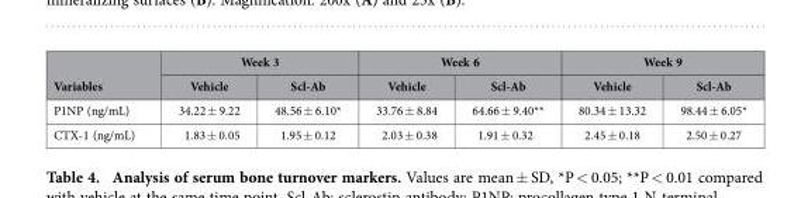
<table><thead><tr><td rowspan="2">Variables</td><td colspan="2">Week 3</td><td colspan="2">Week 6</td><td colspan="2">Week 9</td></tr><tr><td>Vehicle</td><td>Scl-Ab</td><td>Vehicle</td><td>Scl-Ab</td><td>Vehicle</td><td>Scl-Ab</td></tr></thead><tbody><tr><td>P1NP (ng/mL)</td><td>34.22 ± 9.22</td><td>48.56 ± 6.10*</td><td>33.76 ± 8.84</td><td>64.66 ± 9.40**</td><td>80.34 ± 13.32</td><td>98.44 ± 6.05*</td></tr><tr><td>CTX-1 (ng/mL)</td><td>1.83 ± 0.05</td><td>1.95 ± 0.12</td><td>2.03 ± 0.38</td><td>1.91 ± 0.32</td><td>2.45 ± 0.18</td><td>2.50 ± 0.27</td></tr></tbody></table>